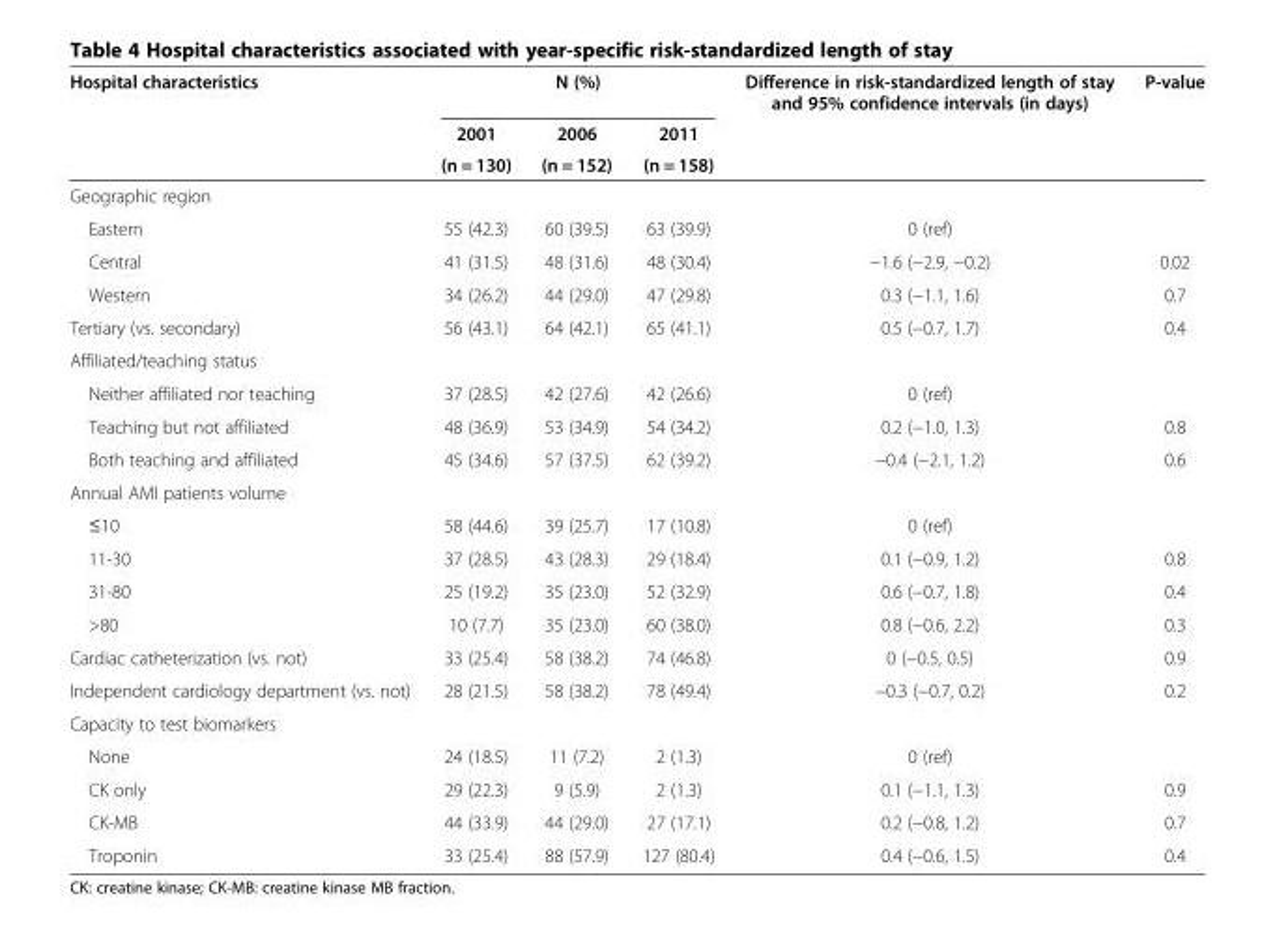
<table><thead><tr><td rowspan="3">Hospital characteristics</td><td colspan="3">N (%)</td><td rowspan="3">Difference in risk-standardized length of stay and 95% confidence intervals (in days)</td><td rowspan="3">P-value</td></tr><tr><td rowspan="2">2001 (n = 130)</td><td rowspan="2">2006 (n = 152)</td><td rowspan="2">2011 (n = 158)</td></tr><tr></tr></thead><tbody><tr><td colspan="6">Geographic region</td></tr><tr><td>Eastern</td><td>55 (42.3)</td><td>60 (39.5)</td><td>63 (39.9)</td><td>0 (ref)</td><td></td></tr><tr><td>Central</td><td>41 (31.5)</td><td>48 (31.6)</td><td>48 (30.4)</td><td>−1.6 (−2.9, −0.2)</td><td>0.02</td></tr><tr><td>Western</td><td>34 (26.2)</td><td>44 (29.0)</td><td>47 (29.8)</td><td>0.3 (−1.1, 1.6)</td><td>0.7</td></tr><tr><td>Tertiary (vs. secondary)</td><td>56 (43.1)</td><td>64 (42.1)</td><td>65 (41.1)</td><td>0.5 (−0.7, 1.7)</td><td>0.4</td></tr><tr><td colspan="6">Affiliated/teaching status</td></tr><tr><td>Neither affiliated nor teaching</td><td>37 (28.5)</td><td>42 (27.6)</td><td>42 (26.6)</td><td>0 (ref)</td><td></td></tr><tr><td>Teaching but not affiliated</td><td>48 (36.9)</td><td>53 (34.9)</td><td>54 (34.2)</td><td>0.2 (−1.0, 1.3)</td><td>0.8</td></tr><tr><td>Both teaching and affiliated</td><td>45 (34.6)</td><td>57 (37.5)</td><td>62 (39.2)</td><td>−0.4 (−2.1, 1.2)</td><td>0.6</td></tr><tr><td colspan="6">Annual AMI patients volume</td></tr><tr><td>≤10</td><td>58 (44.6)</td><td>39 (25.7)</td><td>17 (10.8)</td><td>0 (ref)</td><td></td></tr><tr><td>11-30</td><td>37 (28.5)</td><td>43 (28.3)</td><td>29 (18.4)</td><td>0.1 (−0.9, 1.2)</td><td>0.8</td></tr><tr><td>31-80</td><td>25 (19.2)</td><td>35 (23.0)</td><td>52 (32.9)</td><td>0.6 (−0.7, 1.8)</td><td>0.4</td></tr><tr><td>&gt;80</td><td>10 (7.7)</td><td>35 (23.0)</td><td>60 (38.0)</td><td>0.8 (−0.6, 2.2)</td><td>0.3</td></tr><tr><td>Cardiac catheterization (vs. not)</td><td>33 (25.4)</td><td>58 (38.2)</td><td>74 (46.8)</td><td>0 (−0.5, 0.5)</td><td>0.9</td></tr><tr><td>Independent cardiology department (vs. not)</td><td>28 (21.5)</td><td>58 (38.2)</td><td>78 (49.4)</td><td>−0.3 (−0.7, 0.2)</td><td>0.2</td></tr><tr><td colspan="6">Capacity to test biomarkers</td></tr><tr><td>None</td><td>24 (18.5)</td><td>11 (7.2)</td><td>2 (1.3)</td><td>0 (ref)</td><td></td></tr><tr><td>CK only</td><td>29 (22.3)</td><td>9 (5.9)</td><td>2 (1.3)</td><td>0.1 (−1.1, 1.3)</td><td>0.9</td></tr><tr><td>CK-MB</td><td>44 (33.9)</td><td>44 (29.0)</td><td>27 (17.1)</td><td>0.2 (−0.8, 1.2)</td><td>0.7</td></tr><tr><td>Troponin</td><td>33 (25.4)</td><td>88 (57.9)</td><td>127 (80.4)</td><td>0.4 (−0.6, 1.5)</td><td>0.4</td></tr></tbody></table>